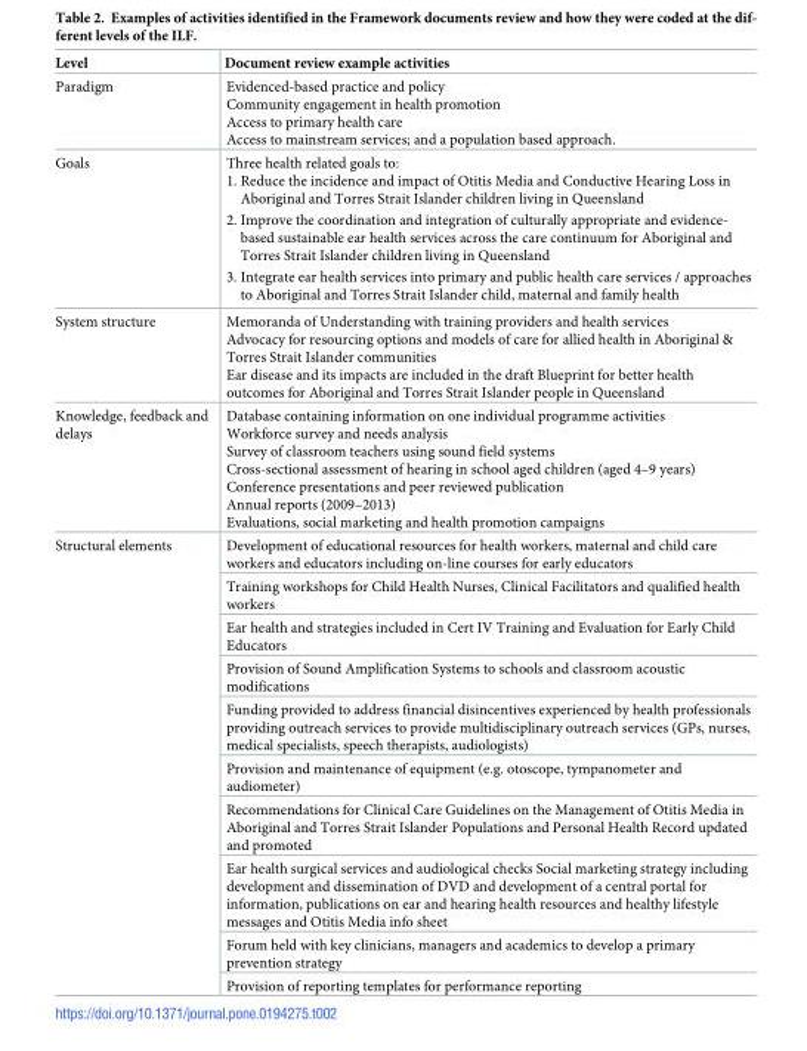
<table><thead><tr><td>Level</td><td>Document review example activities</td></tr></thead><tbody><tr><td>Paradigm</td><td>Evidenced-based practice and policy Community engagement in health promotion Access to primary health care Access to mainstream services; and a population based approach.</td></tr><tr><td>Goals</td><td>Three health related goals to: 1. Reduce the incidence and impact of Otitis Media and Conductive Hearing Loss in Aboriginal and Torres Strait Islander children living in Queensland 2. Improve the coordination and integration of culturally appropriate and evidence- based sustainable ear health services across the care continuum for Aboriginal and Torres Strait Islander children living in Queensland 3. Integrate ear health services into primary and public health care services / approaches to Aboriginal and Torres Strait Islander child, maternal and family health</td></tr><tr><td>System structure</td><td>Memoranda of Understanding with training providers and health services Advocacy for resourcing options and models of care for allied health in Aboriginal &amp; Torres Strait Islander communities Ear disease and its impacts are included in the draft Blueprint for better health outcomes for Aboriginal and Torres Strait Islander people in Queensland</td></tr><tr><td>Knowledge, feedback and delays</td><td>Database containing information on one individual programme activities Workforce survey and needs analysis Survey of classroom teachers using sound field systems Cross-sectional assessment of hearing in school aged children (aged 4–9 years) Conference presentations and peer reviewed publication Annual reports (2009–2013) Evaluations, social marketing and health promotion campaigns</td></tr><tr><td rowspan="10">Structural elements</td><td>Development of educational resources for health workers, maternal and child care workers and educators including on-line courses for early educators</td></tr><tr><td>Training workshops for Child Health Nurses, Clinical Facilitators and qualified health workers</td></tr><tr><td>Ear health and strategies included in Cert IV Training and Evaluation for Early Child Educators</td></tr><tr><td>Provision of Sound Amplification Systems to schools and classroom acoustic modifications</td></tr><tr><td>Funding provided to address financial disincentives experienced by health professionals providing outreach services to provide multidisciplinary outreach services (GPs, nurses, medical specialists, speech therapists, audiologists)</td></tr><tr><td>Provision and maintenance of equipment (e.g. otoscope, tympanometer and audiometer)</td></tr><tr><td>Recommendations for Clinical Care Guidelines on the Management of Otitis Media in Aboriginal and Torres Strait Islander Populations and Personal Health Record updated and promoted</td></tr><tr><td>Ear health surgical services and audiological checks Social marketing strategy including development and dissemination of DVD and development of a central portal for information, publications on ear and hearing health resources and healthy lifestyle messages and Otitis Media info sheet</td></tr><tr><td>Forum held with key clinicians, managers and academics to develop a primary prevention strategy</td></tr><tr><td>Provision of reporting templates for performance reporting</td></tr></tbody></table>